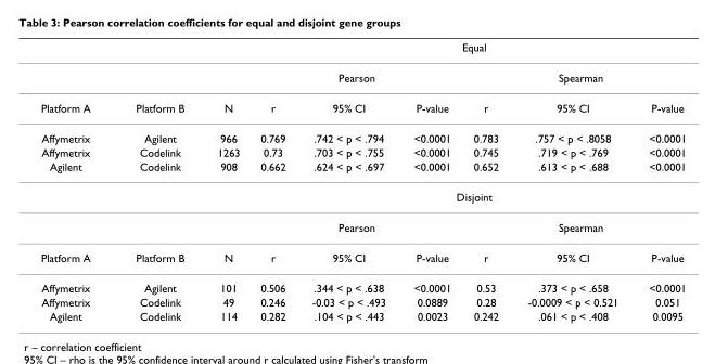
<table><thead><tr><td rowspan="3">Platform A</td><td rowspan="3">Platform B</td><td rowspan="3">N</td><td colspan="6">Equal</td></tr><tr><td colspan="3">Pearson</td><td colspan="3">Spearman</td></tr><tr><td>r</td><td>95% CI</td><td>P-value</td><td>r</td><td>95% CI</td><td>P-value</td></tr></thead><tbody><tr><td>Affymetrix</td><td>Agilent</td><td>966</td><td>0.769</td><td>.742 &lt; p &lt; .794</td><td>&lt;0.0001</td><td>0.783</td><td>.757 &lt; p &lt; .8058</td><td>&lt;0.0001</td></tr><tr><td>Affymetrix</td><td>Codelink</td><td>1263</td><td>0.73</td><td>.703 &lt; p &lt; .755</td><td>&lt;0.0001</td><td>0.745</td><td>.719 &lt; p &lt; .769</td><td>&lt;0.0001</td></tr><tr><td rowspan="3">Agilent</td><td>Codelink</td><td>908</td><td>0.662</td><td>.624 &lt; p &lt; .697</td><td>&lt;0.0001</td><td>0.652</td><td>.613 &lt; p &lt; .688</td><td>&lt;0.0001</td></tr><tr><td></td><td></td><td colspan="6">Disjoint</td></tr><tr><td></td><td></td><td colspan="3">Pearson</td><td colspan="3">Spearman</td></tr><tr><td>Platform A</td><td>Platform B</td><td>N</td><td>r</td><td>95% CI</td><td>P-value</td><td>r</td><td>95% CI</td><td>P-value</td></tr><tr><td>Affymetrix</td><td>Agilent</td><td>101</td><td>0.506</td><td>.344 &lt; p &lt; .638</td><td>&lt;0.0001</td><td>0.53</td><td>.373 &lt; p &lt; .658</td><td>&lt;0.0001</td></tr><tr><td>Affymetrix</td><td>Codelink</td><td>49</td><td>0.246</td><td>-0.03 &lt; p &lt; .493</td><td>0.0889</td><td>0.28</td><td>-0.0009 &lt; p &lt; 0.521</td><td>0.051</td></tr><tr><td>Agilent</td><td>Codelink</td><td>114</td><td>0.282</td><td>.104 &lt; p &lt; .443</td><td>0.0023</td><td>0.242</td><td>.061 &lt; p &lt; .408</td><td>0.0095</td></tr></tbody></table>